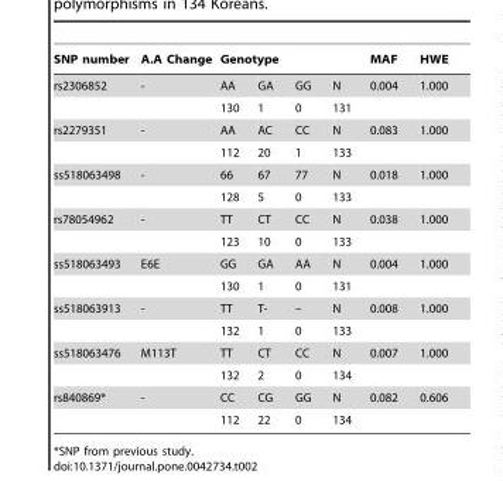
<table><thead><tr><td rowspan="2">SNP number rs2306852</td><td rowspan="2">A.A Change -</td><td colspan="4">Genotype</td><td rowspan="2">MAF 0.004</td><td rowspan="2">HWE 1.000</td></tr><tr><td>AA</td><td>GA</td><td>GG</td><td>N</td></tr></thead><tbody><tr><td></td><td></td><td>130</td><td>1</td><td>0</td><td>131</td><td></td><td></td></tr><tr><td rowspan="2">rs2279351</td><td>-</td><td>AA</td><td>AC</td><td>CC</td><td>N</td><td>0.083</td><td>1.000</td></tr><tr><td></td><td>112</td><td>20</td><td>1</td><td>133</td><td></td><td></td></tr><tr><td rowspan="2">ss518063498</td><td>-</td><td>66</td><td>67</td><td>77</td><td>N</td><td>0.018</td><td>1.000</td></tr><tr><td></td><td>128</td><td>5</td><td>0</td><td>133</td><td></td><td></td></tr><tr><td rowspan="2">rs78054962</td><td>-</td><td>TT</td><td>CT</td><td>CC</td><td>N</td><td>0.038</td><td>1.000</td></tr><tr><td></td><td>123</td><td>10</td><td>0</td><td>133</td><td></td><td></td></tr><tr><td rowspan="2">ss518063493</td><td>E6E</td><td>GG</td><td>GA</td><td>AA</td><td>N</td><td>0.004</td><td>1.000</td></tr><tr><td></td><td>130</td><td>1</td><td>0</td><td>131</td><td></td><td></td></tr><tr><td rowspan="2">ss518063913</td><td>-</td><td>TT</td><td>T-</td><td>–</td><td>N</td><td>0.008</td><td>1.000</td></tr><tr><td></td><td>132</td><td>1</td><td>0</td><td>133</td><td></td><td></td></tr><tr><td rowspan="2">ss518063476</td><td>M113T</td><td>TT</td><td>CT</td><td>CC</td><td>N</td><td>0.007</td><td>1.000</td></tr><tr><td></td><td>132</td><td>2</td><td>0</td><td>134</td><td></td><td></td></tr><tr><td rowspan="2">rs840869*</td><td>-</td><td>CC</td><td>CG</td><td>GG</td><td>N</td><td>0.082</td><td>0.606</td></tr><tr><td></td><td>112</td><td>22</td><td>0</td><td>134</td><td></td><td></td></tr></tbody></table>